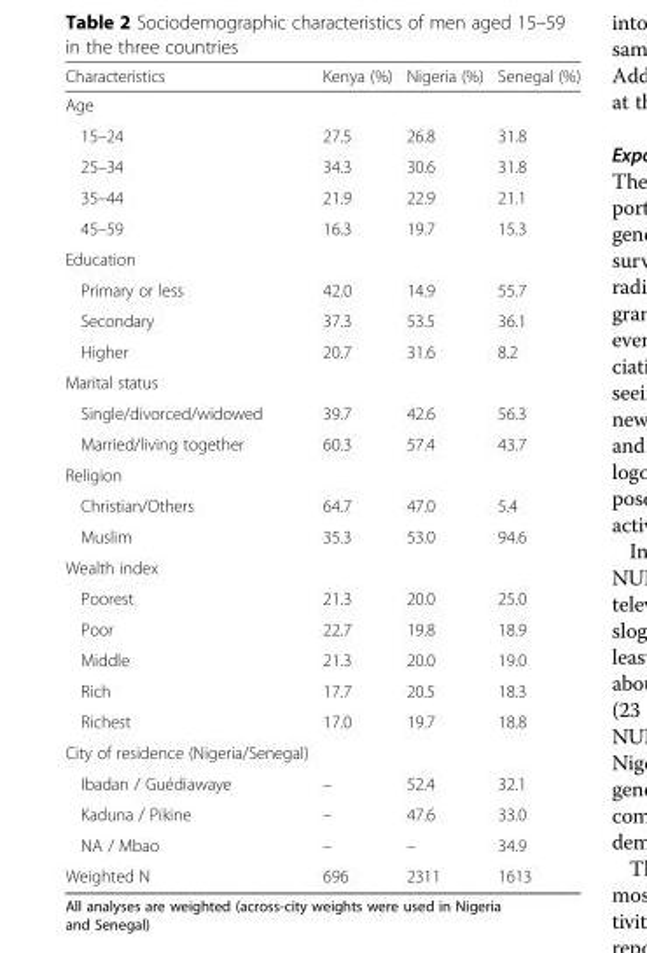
<table><thead><tr><td>Characteristics</td><td>Kenya (%)</td><td>Nigeria (%)</td><td>Senegal (%)</td></tr></thead><tbody><tr><td colspan="4">Age</td></tr><tr><td>15–24</td><td>27.5</td><td>26.8</td><td>31.8</td></tr><tr><td>25–34</td><td>34.3</td><td>30.6</td><td>31.8</td></tr><tr><td>35–44</td><td>21.9</td><td>22.9</td><td>21.1</td></tr><tr><td>45–59</td><td>16.3</td><td>19.7</td><td>15.3</td></tr><tr><td colspan="4">Education</td></tr><tr><td>Primary or less</td><td>42.0</td><td>14.9</td><td>55.7</td></tr><tr><td>Secondary</td><td>37.3</td><td>53.5</td><td>36.1</td></tr><tr><td>Higher</td><td>20.7</td><td>31.6</td><td>8.2</td></tr><tr><td colspan="4">Marital status</td></tr><tr><td>Single/divorced/widowed</td><td>39.7</td><td>42.6</td><td>56.3</td></tr><tr><td>Married/living together</td><td>60.3</td><td>57.4</td><td>43.7</td></tr><tr><td colspan="4">Religion</td></tr><tr><td>Christian/Others</td><td>64.7</td><td>47.0</td><td>5.4</td></tr><tr><td>Muslim</td><td>35.3</td><td>53.0</td><td>94.6</td></tr><tr><td colspan="4">Wealth index</td></tr><tr><td>Poorest</td><td>21.3</td><td>20.0</td><td>25.0</td></tr><tr><td>Poor</td><td>22.7</td><td>19.8</td><td>18.9</td></tr><tr><td>Middle</td><td>21.3</td><td>20.0</td><td>19.0</td></tr><tr><td>Rich</td><td>17.7</td><td>20.5</td><td>18.3</td></tr><tr><td>Richest</td><td>17.0</td><td>19.7</td><td>18.8</td></tr><tr><td colspan="4">City of residence (Nigeria/Senegal)</td></tr><tr><td>Ibadan / Guédiawaye</td><td>–</td><td>52.4</td><td>32.1</td></tr><tr><td>Kaduna / Pikine</td><td>–</td><td>47.6</td><td>33.0</td></tr><tr><td>NA / Mbao</td><td>–</td><td>–</td><td>34.9</td></tr><tr><td>Weighted N</td><td>696</td><td>2311</td><td>1613</td></tr></tbody></table>